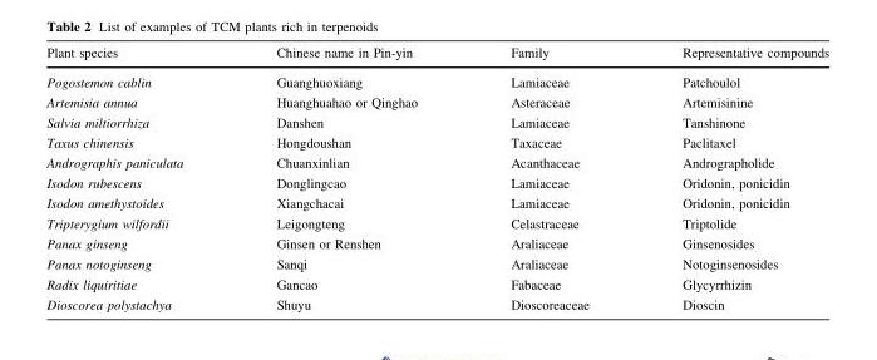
<table><thead><tr><td>Plant species</td><td>Chinese name in Pin-yin</td><td>Family</td><td>Representative compounds</td></tr></thead><tbody><tr><td>Pogostemon cablin</td><td>Guanghuoxiang</td><td>Lamiaceae</td><td>Patchoulol</td></tr><tr><td>Artemisia annua</td><td>Huanghuahao or Qinghao</td><td>Asteraceae</td><td>Artemisinine</td></tr><tr><td>Salvia miltiorrhiza</td><td>Danshen</td><td>Lamiaceae</td><td>Tanshinone</td></tr><tr><td>Taxus chinensis</td><td>Hongdoushan</td><td>Taxaceae</td><td>Paclitaxel</td></tr><tr><td>Andrographis paniculata</td><td>Chuanxinlian</td><td>Acanthaceae</td><td>Andrographolide</td></tr><tr><td>Isodon rubescens</td><td>Donglingcao</td><td>Lamiaceae</td><td>Oridonin, ponicidin</td></tr><tr><td>Isodon amethystoides</td><td>Xiangchacai</td><td>Lamiaceae</td><td>Oridonin, ponicidin</td></tr><tr><td>Tripterygium wilfordii</td><td>Leigongteng</td><td>Celastraceae</td><td>Triptolide</td></tr><tr><td>Panax ginseng</td><td>Ginsen or Renshen</td><td>Araliaceae</td><td>Ginsenosides</td></tr><tr><td>Panax notoginseng</td><td>Sanqi</td><td>Araliaceae</td><td>Notoginsenosides</td></tr><tr><td>Radix liquiritiae</td><td>Gancao</td><td>Fabaceae</td><td>Glycyrrhizin</td></tr><tr><td>Dioscorea polystachya</td><td>Shuyu</td><td>Dioscoreaceae</td><td>Dioscin</td></tr></tbody></table>